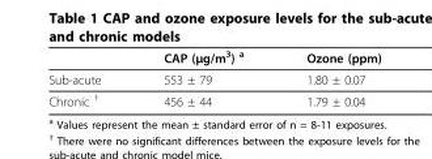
<table><thead><tr><td></td><td>CAP (μg/m<sup>3</sup>) <sup>a</sup></td><td>Ozone (ppm)</td></tr></thead><tbody><tr><td>Sub-acute</td><td>553 ± 79</td><td>1.80 ± 0.07</td></tr><tr><td>Chronic <sup>†</sup></td><td>456 ± 44</td><td>1.79 ± 0.04</td></tr></tbody></table>